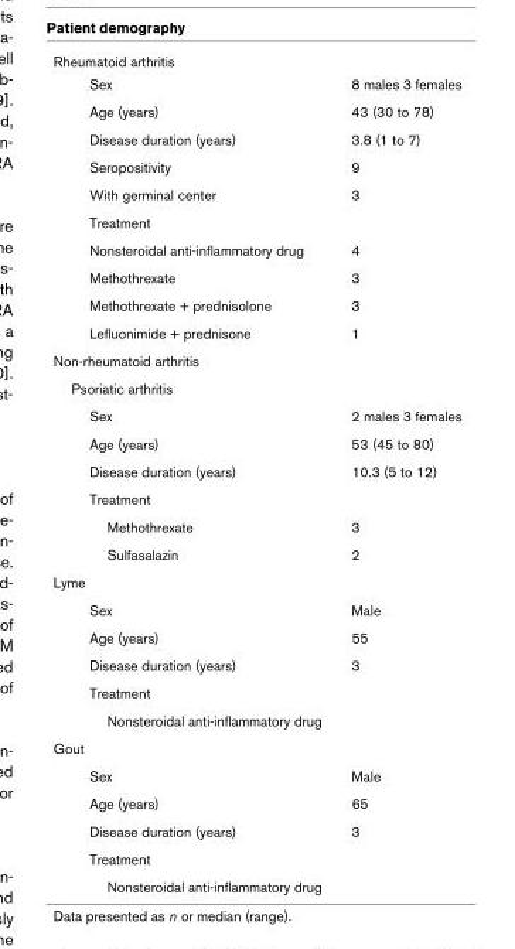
<table><tbody><tr><td colspan="2">Rheumatoid arthritis</td></tr><tr><td>Sex</td><td>8 males 3 females</td></tr><tr><td>Age (years)</td><td>43 (30 to 78)</td></tr><tr><td>Disease duration (years)</td><td>3.8 (1 to 7)</td></tr><tr><td>Seropositivity</td><td>9</td></tr><tr><td>With germinal center</td><td>3</td></tr><tr><td colspan="2">Treatment</td></tr><tr><td>Nonsteroidal anti-inflammatory drug</td><td>4</td></tr><tr><td>Methothrexate</td><td>3</td></tr><tr><td>Methothrexate + prednisolone</td><td>3</td></tr><tr><td>Lefluonimide + prednisone</td><td>1</td></tr><tr><td colspan="2">Non-rheumatoid arthritis</td></tr><tr><td colspan="2">Psoriatic arthritis</td></tr><tr><td>Sex</td><td>2 males 3 females</td></tr><tr><td>Age (years)</td><td>53 (45 to 80)</td></tr><tr><td>Disease duration (years)</td><td>10.3 (5 to 12)</td></tr><tr><td colspan="2">Treatment</td></tr><tr><td>Methothrexate</td><td>3</td></tr><tr><td>Sulfasalazin</td><td>2</td></tr><tr><td colspan="2">Lyme</td></tr><tr><td>Sex</td><td>Male</td></tr><tr><td>Age (years)</td><td>55</td></tr><tr><td>Disease duration (years)</td><td>3</td></tr><tr><td colspan="2">Treatment</td></tr><tr><td colspan="2">Nonsteroidal anti-inflammatory drug</td></tr><tr><td colspan="2">Gout</td></tr><tr><td>Sex</td><td>Male</td></tr><tr><td>Age (years)</td><td>65</td></tr><tr><td>Disease duration (years)</td><td>3</td></tr><tr><td colspan="2">Treatment</td></tr><tr><td>Nonsteroidal anti-inflammatory drug</td><td></td></tr></tbody></table>